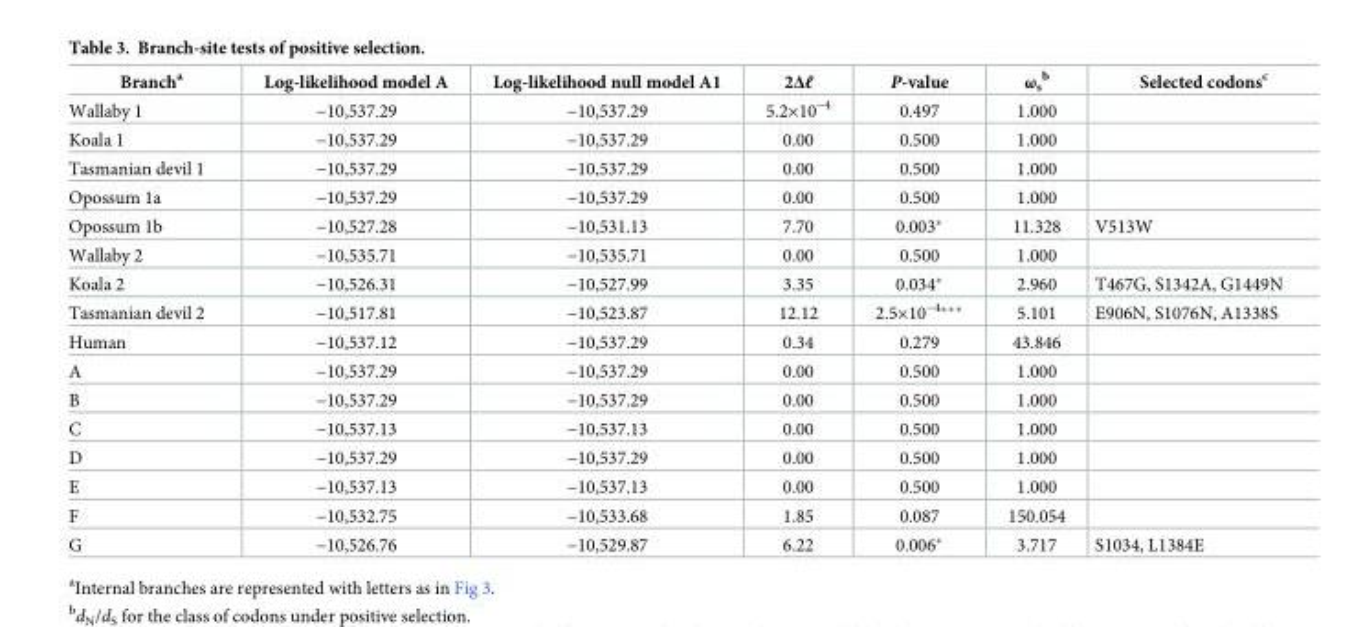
<table><thead><tr><td>Branch<sup>a</sup></td><td>Log-likelihood model A</td><td>Log-likelihood null model A1</td><td>2Δℓ</td><td>P-value</td><td>ω<sub>s</sub> <sup>b</sup></td><td>Selected codons<sup>c</sup></td></tr></thead><tbody><tr><td>Wallaby 1</td><td>−10,537.29</td><td>−10,537.29</td><td>5.2×10<sup>−4</sup></td><td>0.497</td><td>1.000</td><td></td></tr><tr><td>Koala 1</td><td>−10,537.29</td><td>−10,537.29</td><td>0.00</td><td>0.500</td><td>1.000</td><td></td></tr><tr><td>Tasmanian devil 1</td><td>−10,537.29</td><td>−10,537.29</td><td>0.00</td><td>0.500</td><td>1.000</td><td></td></tr><tr><td>Opossum 1a</td><td>−10,537.29</td><td>−10,537.29</td><td>0.00</td><td>0.500</td><td>1.000</td><td></td></tr><tr><td>Opossum 1b</td><td>−10,527.28</td><td>−10,531.13</td><td>7.70</td><td>0.003*</td><td>11.328</td><td>V513W</td></tr><tr><td>Wallaby 2</td><td>−10,535.71</td><td>−10,535.71</td><td>0.00</td><td>0.500</td><td>1.000</td><td></td></tr><tr><td>Koala 2</td><td>−10,526.31</td><td>−10,527.99</td><td>3.35</td><td>0.034*</td><td>2.960</td><td>T467G, S1342A, G1449N</td></tr><tr><td>Tasmanian devil 2</td><td>−10,517.81</td><td>−10,523.87</td><td>12.12</td><td>2.5×10<sup>−4</sup>***</td><td>5.101</td><td>E906N, S1076N, A1338S</td></tr><tr><td>Human</td><td>−10,537.12</td><td>−10,537.29</td><td>0.34</td><td>0.279</td><td>43.846</td><td></td></tr><tr><td>A</td><td>−10,537.29</td><td>−10,537.29</td><td>0.00</td><td>0.500</td><td>1.000</td><td></td></tr><tr><td>B</td><td>−10,537.29</td><td>−10,537.29</td><td>0.00</td><td>0.500</td><td>1.000</td><td></td></tr><tr><td>C</td><td>−10,537.13</td><td>−10,537.13</td><td>0.00</td><td>0.500</td><td>1.000</td><td></td></tr><tr><td>D</td><td>−10,537.29</td><td>−10,537.29</td><td>0.00</td><td>0.500</td><td>1.000</td><td></td></tr><tr><td>E</td><td>−10,537.13</td><td>−10,537.13</td><td>0.00</td><td>0.500</td><td>1.000</td><td></td></tr><tr><td>F</td><td>−10,532.75</td><td>−10,533.68</td><td>1.85</td><td>0.087</td><td>150.054</td><td></td></tr><tr><td>G</td><td>−10,526.76</td><td>−10,529.87</td><td>6.22</td><td>0.006*</td><td>3.717</td><td>S1034, L1384E</td></tr></tbody></table>